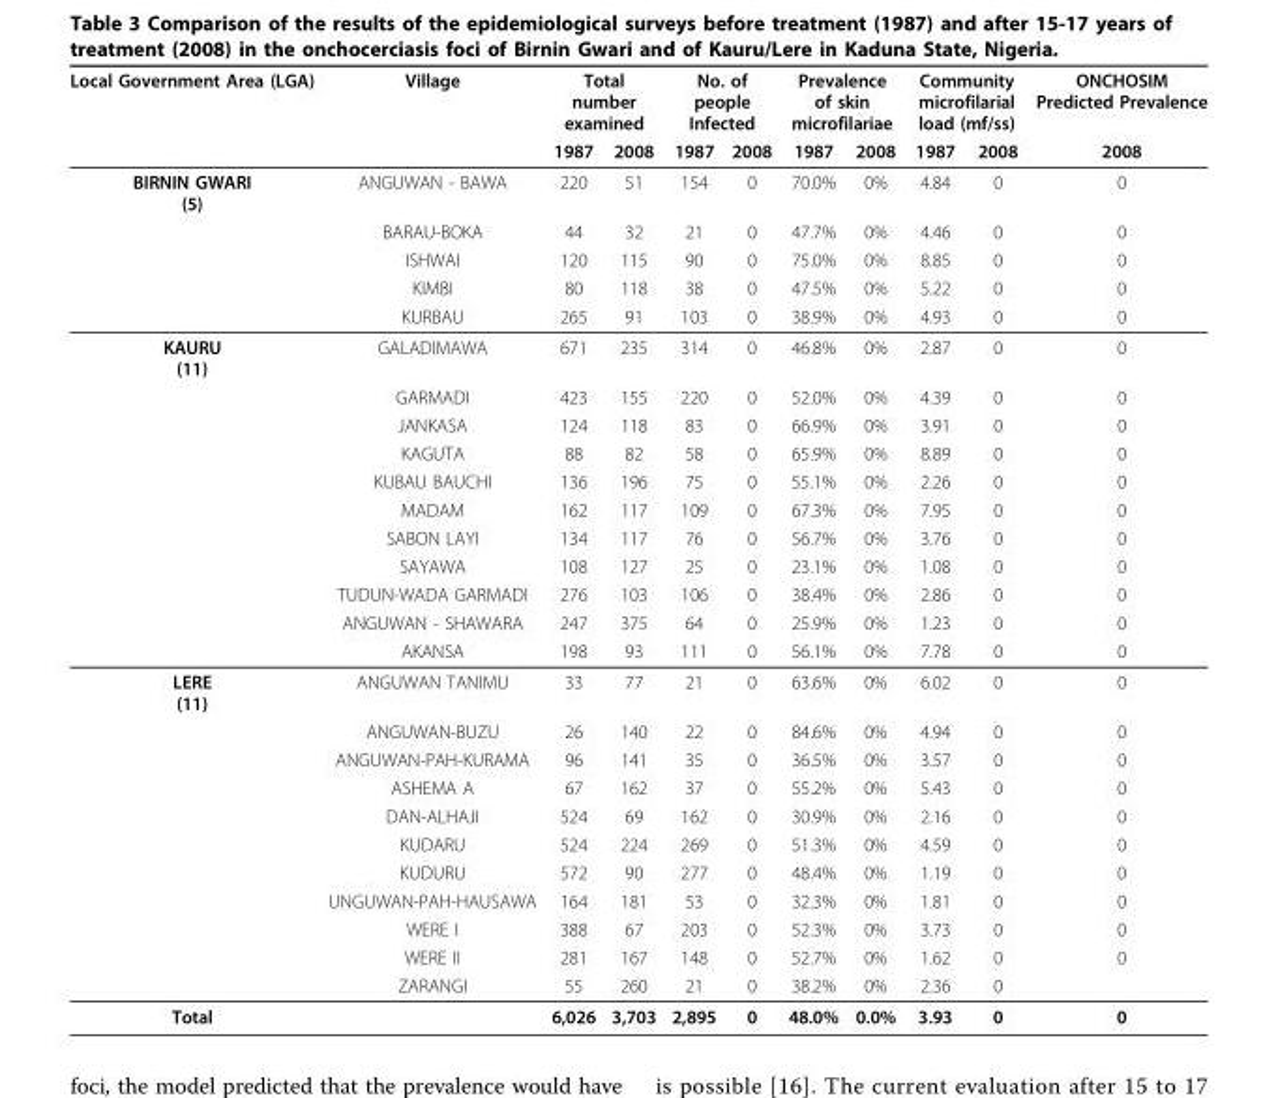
<table><thead><tr><td rowspan="2">Local Government Area (LGA)</td><td rowspan="2">Village</td><td colspan="2">Total number examined</td><td colspan="2">No. of people Infected</td><td colspan="2">Prevalence of skin microfilariae</td><td colspan="2">Community microfilarial load (mf/ss)</td><td rowspan="2">ONCHOSIM Predicted Prevalence 2008</td></tr><tr><td>1987</td><td>2008</td><td>1987</td><td>2008</td><td>1987</td><td>2008</td><td>1987</td><td>2008</td></tr></thead><tbody><tr><td rowspan="5">BIRNIN GWARI (5)</td><td>ANGUWAN - BAWA</td><td>220</td><td>51</td><td>154</td><td>0</td><td>70.0%</td><td>0%</td><td>4.84</td><td>0</td><td>0</td></tr><tr><td>BARAU-BOKA</td><td>44</td><td>32</td><td>21</td><td>0</td><td>47.7%</td><td>0%</td><td>4.46</td><td>0</td><td>0</td></tr><tr><td>ISHWAI</td><td>120</td><td>115</td><td>90</td><td>0</td><td>75.0%</td><td>0%</td><td>8.85</td><td>0</td><td>0</td></tr><tr><td>KIMBI</td><td>80</td><td>118</td><td>38</td><td>0</td><td>47.5%</td><td>0%</td><td>5.22</td><td>0</td><td>0</td></tr><tr><td>KURBAU</td><td>265</td><td>91</td><td>103</td><td>0</td><td>38.9%</td><td>0%</td><td>4.93</td><td>0</td><td>0</td></tr><tr><td rowspan="11">KAURU (11)</td><td>GALADIMAWA</td><td>671</td><td>235</td><td>314</td><td>0</td><td>46.8%</td><td>0%</td><td>2.87</td><td>0</td><td>0</td></tr><tr><td>GARMADI</td><td>423</td><td>155</td><td>220</td><td>0</td><td>52.0%</td><td>0%</td><td>4.39</td><td>0</td><td>0</td></tr><tr><td>JANKASA</td><td>124</td><td>118</td><td>83</td><td>0</td><td>66.9%</td><td>0%</td><td>3.91</td><td>0</td><td>0</td></tr><tr><td>KAGUTA</td><td>88</td><td>82</td><td>58</td><td>0</td><td>65.9%</td><td>0%</td><td>8.89</td><td>0</td><td>0</td></tr><tr><td>KUBAU BAUCHI</td><td>136</td><td>196</td><td>75</td><td>0</td><td>55.1%</td><td>0%</td><td>2.26</td><td>0</td><td>0</td></tr><tr><td>MADAM</td><td>162</td><td>117</td><td>109</td><td>0</td><td>67.3%</td><td>0%</td><td>7.95</td><td>0</td><td>0</td></tr><tr><td>SABON LAYI</td><td>134</td><td>117</td><td>76</td><td>0</td><td>56.7%</td><td>0%</td><td>3.76</td><td>0</td><td>0</td></tr><tr><td>SAYAWA</td><td>108</td><td>127</td><td>25</td><td>0</td><td>23.1%</td><td>0%</td><td>1.08</td><td>0</td><td>0</td></tr><tr><td>TUDUN-WADA GARMADI</td><td>276</td><td>103</td><td>106</td><td>0</td><td>38.4%</td><td>0%</td><td>2.86</td><td>0</td><td>0</td></tr><tr><td>ANGUWAN - SHAWARA</td><td>247</td><td>375</td><td>64</td><td>0</td><td>25.9%</td><td>0%</td><td>1.23</td><td>0</td><td>0</td></tr><tr><td>AKANSA</td><td>198</td><td>93</td><td>111</td><td>0</td><td>56.1%</td><td>0%</td><td>7.78</td><td>0</td><td>0</td></tr><tr><td rowspan="11">LERE (11)</td><td>ANGUWAN TANIMU</td><td>33</td><td>77</td><td>21</td><td>0</td><td>63.6%</td><td>0%</td><td>6.02</td><td>0</td><td>0</td></tr><tr><td>ANGUWAN-BUZU</td><td>26</td><td>140</td><td>22</td><td>0</td><td>84.6%</td><td>0%</td><td>4.94</td><td>0</td><td>0</td></tr><tr><td>ANGUWAN-PAH-KURAMA</td><td>96</td><td>141</td><td>35</td><td>0</td><td>36.5%</td><td>0%</td><td>3.57</td><td>0</td><td>0</td></tr><tr><td>ASHEMA A</td><td>67</td><td>162</td><td>37</td><td>0</td><td>55.2%</td><td>0%</td><td>5.43</td><td>0</td><td>0</td></tr><tr><td>DAN-ALHAJI</td><td>524</td><td>69</td><td>162</td><td>0</td><td>30.9%</td><td>0%</td><td>2.16</td><td>0</td><td>0</td></tr><tr><td>KUDARU</td><td>524</td><td>224</td><td>269</td><td>0</td><td>51.3%</td><td>0%</td><td>4.59</td><td>0</td><td>0</td></tr><tr><td>KUDURU</td><td>572</td><td>90</td><td>277</td><td>0</td><td>48.4%</td><td>0%</td><td>1.19</td><td>0</td><td>0</td></tr><tr><td>UNGUWAN-PAH-HAUSAWA</td><td>164</td><td>181</td><td>53</td><td>0</td><td>32.3%</td><td>0%</td><td>1.81</td><td>0</td><td>0</td></tr><tr><td>WERE I</td><td>388</td><td>67</td><td>203</td><td>0</td><td>52.3%</td><td>0%</td><td>3.73</td><td>0</td><td>0</td></tr><tr><td>WERE II</td><td>281</td><td>167</td><td>148</td><td>0</td><td>52.7%</td><td>0%</td><td>1.62</td><td>0</td><td>0</td></tr><tr><td>ZARANGI</td><td>55</td><td>260</td><td>21</td><td>0</td><td>38.2%</td><td>0%</td><td>2.36</td><td>0</td><td></td></tr><tr><td>Total</td><td></td><td>6,026</td><td>3,703</td><td>2,895</td><td>0</td><td>48.0%</td><td>0.0%</td><td>3.93</td><td>0</td><td>0</td></tr></tbody></table>